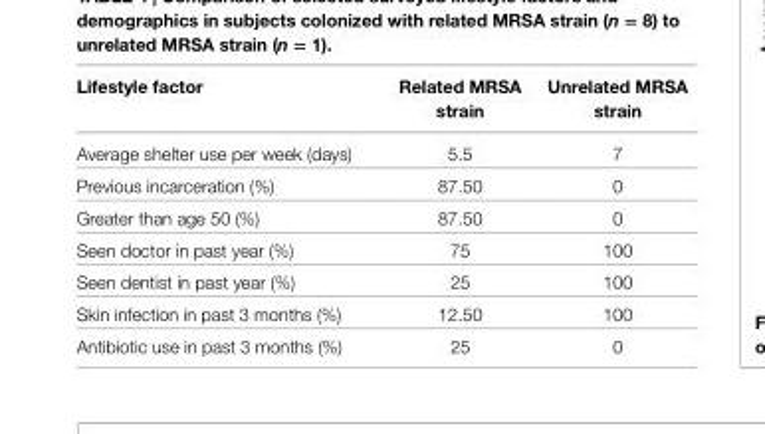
<table><thead><tr><td>lifestyle factor</td><td>related Mrsa strain</td><td>Unrelated Mrsa strain</td></tr></thead><tbody><tr><td>Average shelter use per week (days)</td><td>5.5</td><td>7</td></tr><tr><td>Previous incarceration (%)</td><td>87.50</td><td>0</td></tr><tr><td>Greater than age 50 (%)</td><td>87.50</td><td>0</td></tr><tr><td>Seen doctor in past year (%)</td><td>75</td><td>100</td></tr><tr><td>Seen dentist in past year (%)</td><td>25</td><td>100</td></tr><tr><td>Skin infection in past 3 months (%)</td><td>12.50</td><td>100</td></tr><tr><td>Antibiotic use in past 3 months (%)</td><td>25</td><td>0</td></tr></tbody></table>